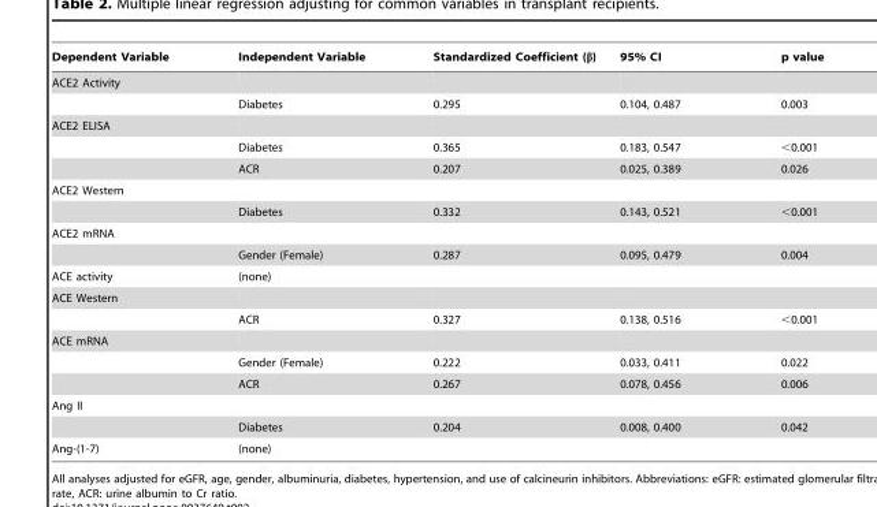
<table><thead><tr><td>Dependent Variable</td><td>Independent Variable</td><td>Standardized Coefficient (β)</td><td>95% CI</td><td>p value</td></tr></thead><tbody><tr><td colspan="5">ACE2 Activity</td></tr><tr><td></td><td>Diabetes</td><td>0.295</td><td>0.104, 0.487</td><td>0.003</td></tr><tr><td colspan="5">ACE2 ELISA</td></tr><tr><td></td><td>Diabetes</td><td>0.365</td><td>0.183, 0.547</td><td>&lt;0.001</td></tr><tr><td></td><td>ACR</td><td>0.207</td><td>0.025, 0.389</td><td>0.026</td></tr><tr><td colspan="5">ACE2 Western</td></tr><tr><td></td><td>Diabetes</td><td>0.332</td><td>0.143, 0.521</td><td>&lt;0.001</td></tr><tr><td colspan="5">ACE2 mRNA</td></tr><tr><td></td><td>Gender (Female)</td><td>0.287</td><td>0.095, 0.479</td><td>0.004</td></tr><tr><td>ACE activity</td><td>(none)</td><td></td><td></td><td></td></tr><tr><td colspan="5">ACE Western</td></tr><tr><td></td><td>ACR</td><td>0.327</td><td>0.138, 0.516</td><td>&lt;0.001</td></tr><tr><td colspan="5">ACE mRNA</td></tr><tr><td></td><td>Gender (Female)</td><td>0.222</td><td>0.033, 0.411</td><td>0.022</td></tr><tr><td></td><td>ACR</td><td>0.267</td><td>0.078, 0.456</td><td>0.006</td></tr><tr><td colspan="5">Ang II</td></tr><tr><td></td><td>Diabetes</td><td>0.204</td><td>0.008, 0.400</td><td>0.042</td></tr><tr><td>Ang-(1-7)</td><td>(none)</td><td></td><td></td><td></td></tr></tbody></table>